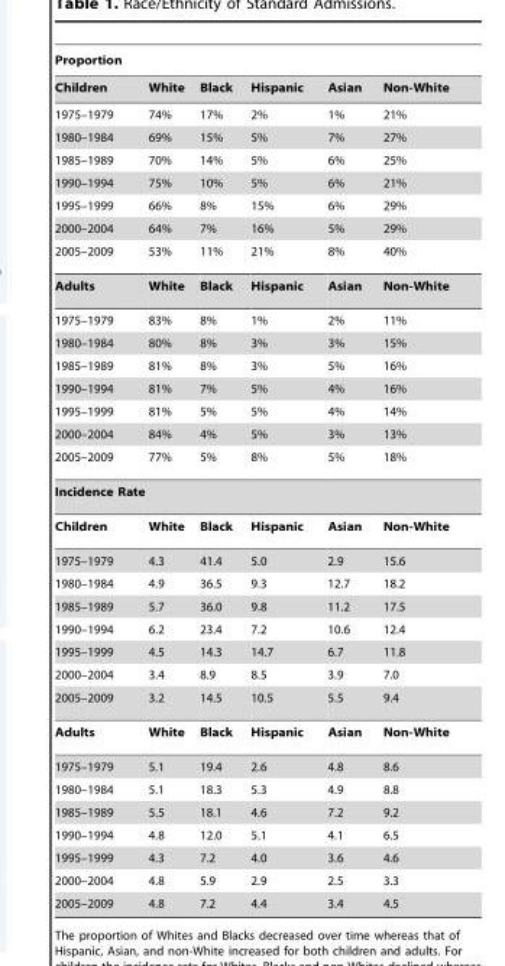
<table><thead><tr><td colspan="6">Proportion</td></tr><tr><td>Children</td><td>White</td><td>Black</td><td>Hispanic</td><td>Asian</td><td>Non-White</td></tr></thead><tbody><tr><td>1975–1979</td><td>74%</td><td>17%</td><td>2%</td><td>1%</td><td>21%</td></tr><tr><td>1980–1984</td><td>69%</td><td>15%</td><td>5%</td><td>7%</td><td>27%</td></tr><tr><td>1985–1989</td><td>70%</td><td>14%</td><td>5%</td><td>6%</td><td>25%</td></tr><tr><td>1990–1994</td><td>75%</td><td>10%</td><td>5%</td><td>6%</td><td>21%</td></tr><tr><td>1995–1999</td><td>66%</td><td>8%</td><td>15%</td><td>6%</td><td>29%</td></tr><tr><td>2000–2004</td><td>64%</td><td>7%</td><td>16%</td><td>5%</td><td>29%</td></tr><tr><td>2005–2009</td><td>53%</td><td>11%</td><td>21%</td><td>8%</td><td>40%</td></tr><tr><td>Adults</td><td>White</td><td>Black</td><td>Hispanic</td><td>Asian</td><td>Non-White</td></tr><tr><td>1975–1979</td><td>83%</td><td>8%</td><td>1%</td><td>2%</td><td>11%</td></tr><tr><td>1980–1984</td><td>80%</td><td>8%</td><td>3%</td><td>3%</td><td>15%</td></tr><tr><td>1985–1989</td><td>81%</td><td>8%</td><td>3%</td><td>5%</td><td>16%</td></tr><tr><td>1990–1994</td><td>81%</td><td>7%</td><td>5%</td><td>4%</td><td>16%</td></tr><tr><td>1995–1999</td><td>81%</td><td>5%</td><td>5%</td><td>4%</td><td>14%</td></tr><tr><td>2000–2004</td><td>84%</td><td>4%</td><td>5%</td><td>3%</td><td>13%</td></tr><tr><td>2005–2009</td><td>77%</td><td>5%</td><td>8%</td><td>5%</td><td>18%</td></tr><tr><td colspan="6">Incidence Rate</td></tr><tr><td>Children</td><td>White</td><td>Black</td><td>Hispanic</td><td>Asian</td><td>Non-White</td></tr><tr><td>1975–1979</td><td>4.3</td><td>41.4</td><td>5.0</td><td>2.9</td><td>15.6</td></tr><tr><td>1980–1984</td><td>4.9</td><td>36.5</td><td>9.3</td><td>12.7</td><td>18.2</td></tr><tr><td>1985–1989</td><td>5.7</td><td>36.0</td><td>9.8</td><td>11.2</td><td>17.5</td></tr><tr><td>1990–1994</td><td>6.2</td><td>23.4</td><td>7.2</td><td>10.6</td><td>12.4</td></tr><tr><td>1995–1999</td><td>4.5</td><td>14.3</td><td>14.7</td><td>6.7</td><td>11.8</td></tr><tr><td>2000–2004</td><td>3.4</td><td>8.9</td><td>8.5</td><td>3.9</td><td>7.0</td></tr><tr><td>2005–2009</td><td>3.2</td><td>14.5</td><td>10.5</td><td>5.5</td><td>9.4</td></tr><tr><td>Adults</td><td>White</td><td>Black</td><td>Hispanic</td><td>Asian</td><td>Non-White</td></tr><tr><td>1975–1979</td><td>5.1</td><td>19.4</td><td>2.6</td><td>4.8</td><td>8.6</td></tr><tr><td>1980–1984</td><td>5.1</td><td>18.3</td><td>5.3</td><td>4.9</td><td>8.8</td></tr><tr><td>1985–1989</td><td>5.5</td><td>18.1</td><td>4.6</td><td>7.2</td><td>9.2</td></tr><tr><td>1990–1994</td><td>4.8</td><td>12.0</td><td>5.1</td><td>4.1</td><td>6.5</td></tr><tr><td>1995–1999</td><td>4.3</td><td>7.2</td><td>4.0</td><td>3.6</td><td>4.6</td></tr><tr><td>2000–2004</td><td>4.8</td><td>5.9</td><td>2.9</td><td>2.5</td><td>3.3</td></tr><tr><td>2005–2009</td><td>4.8</td><td>7.2</td><td>4.4</td><td>3.4</td><td>4.5</td></tr></tbody></table>